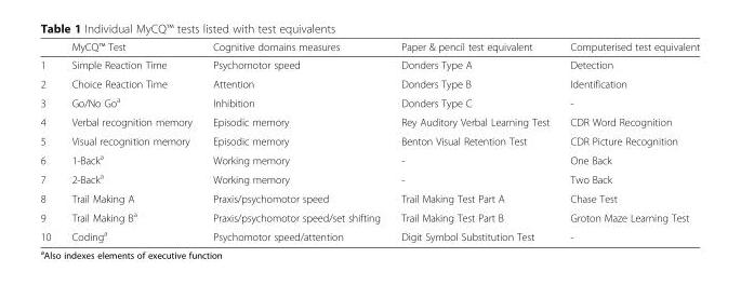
<table><thead><tr><td></td><td>MyCQ™ Test</td><td>Cognitive domains measures</td><td>Paper &amp; pencil test equivalent</td><td>Computerised test equivalent</td></tr></thead><tbody><tr><td>1</td><td>Simple Reaction Time</td><td>Psychomotor speed</td><td>Donders Type A</td><td>Detection</td></tr><tr><td>2</td><td>Choice Reaction Time</td><td>Attention</td><td>Donders Type B</td><td>Identification</td></tr><tr><td>3</td><td>Go/No Go<sup>a</sup></td><td>Inhibition</td><td>Donders Type C</td><td>-</td></tr><tr><td>4</td><td>Verbal recognition memory</td><td>Episodic memory</td><td>Rey Auditory Verbal Learning Test</td><td>CDR Word Recognition</td></tr><tr><td>5</td><td>Visual recognition memory</td><td>Episodic memory</td><td>Benton Visual Retention Test</td><td>CDR Picture Recognition</td></tr><tr><td>6</td><td>1-Back<sup>a</sup></td><td>Working memory</td><td>-</td><td>One Back</td></tr><tr><td>7</td><td>2-Back<sup>a</sup></td><td>Working memory</td><td>-</td><td>Two Back</td></tr><tr><td>8</td><td>Trail Making A</td><td>Praxis/psychomotor speed</td><td>Trail Making Test Part A</td><td>Chase Test</td></tr><tr><td>9</td><td>Trail Making B<sup>a</sup></td><td>Praxis/psychomotor speed/set shifting</td><td>Trail Making Test Part B</td><td>Groton Maze Learning Test</td></tr><tr><td>10</td><td>Coding<sup>a</sup></td><td>Psychomotor speed/attention</td><td>Digit Symbol Substitution Test</td><td>-</td></tr></tbody></table>